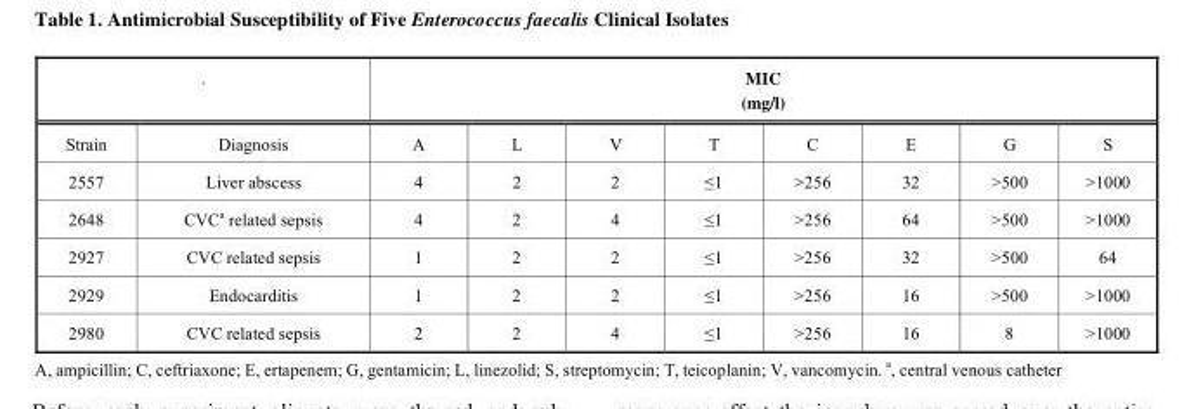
<table><thead><tr><td rowspan="2">Strain</td><td rowspan="2">. Diagnosis</td><td colspan="8">MIC (mg/l)</td></tr><tr><td>A</td><td>L</td><td>V</td><td>T</td><td>C</td><td>E</td><td>G</td><td>S</td></tr></thead><tbody><tr><td>2557</td><td>Liver abscess</td><td>4</td><td>2</td><td>2</td><td>≤1</td><td>&gt;256</td><td>32</td><td>&gt;500</td><td>&gt;1000</td></tr><tr><td>2648</td><td>CVC<sup>a</sup> related sepsis</td><td>4</td><td>2</td><td>4</td><td>≤1</td><td>&gt;256</td><td>64</td><td>&gt;500</td><td>&gt;1000</td></tr><tr><td>2927</td><td>CVC related sepsis</td><td>1</td><td>2</td><td>2</td><td>≤1</td><td>&gt;256</td><td>32</td><td>&gt;500</td><td>64</td></tr><tr><td>2929</td><td>Endocarditis</td><td>1</td><td>2</td><td>2</td><td>≤1</td><td>&gt;256</td><td>16</td><td>&gt;500</td><td>&gt;1000</td></tr><tr><td>2980</td><td>CVC related sepsis</td><td>2</td><td>2</td><td>4</td><td>≤1</td><td>&gt;256</td><td>16</td><td>8</td><td>&gt;1000</td></tr></tbody></table>